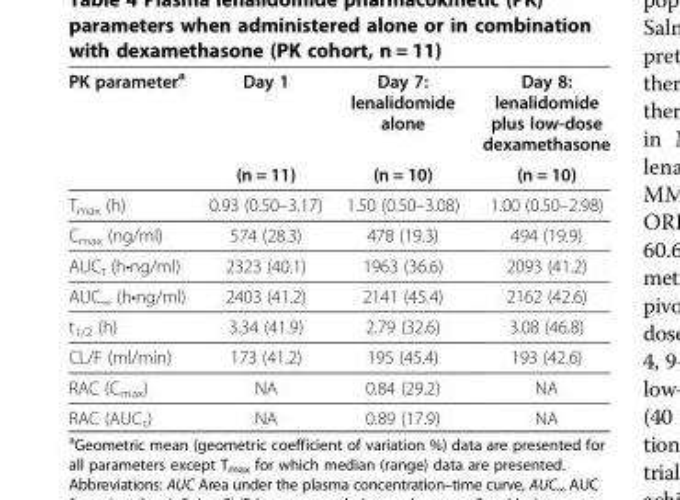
<table><thead><tr><td rowspan="2">PK parameter<sup>a</sup></td><td rowspan="2">Day 1 (n = 11)</td><td rowspan="2">Day 7: lenalidomide alone (n = 10)</td><td rowspan="2">Day 8: lenalidomide plus low-dose dexamethasone (n = 10)</td></tr><tr></tr></thead><tbody><tr><td>T<sub>max</sub> (h)</td><td>0.93 (0.50–3.17)</td><td>1.50 (0.50–3.08)</td><td>1.00 (0.50–2.98)</td></tr><tr><td>C<sub>max</sub> (ng/ml)</td><td>574 (28.3)</td><td>478 (19.3)</td><td>494 (19.9)</td></tr><tr><td>AUC<sub>t</sub> (h•ng/ml)</td><td>2323 (40.1)</td><td>1963 (36.6)</td><td>2093 (41.2)</td></tr><tr><td>AUC<sub>∞</sub> (h•ng/ml)</td><td>2403 (41.2)</td><td>2141 (45.4)</td><td>2162 (42.6)</td></tr><tr><td>t<sub>1/2</sub> (h)</td><td>3.34 (41.9)</td><td>2.79 (32.6)</td><td>3.08 (46.8)</td></tr><tr><td>CL/F (ml/min)</td><td>173 (41.2)</td><td>195 (45.4)</td><td>193 (42.6)</td></tr><tr><td>RAC (C<sub>max</sub>)</td><td>NA</td><td>0.84 (29.2)</td><td>NA</td></tr><tr><td>RAC (AUC<sub>τ</sub>)</td><td>NA</td><td>0.89 (17.9)</td><td>NA</td></tr></tbody></table>